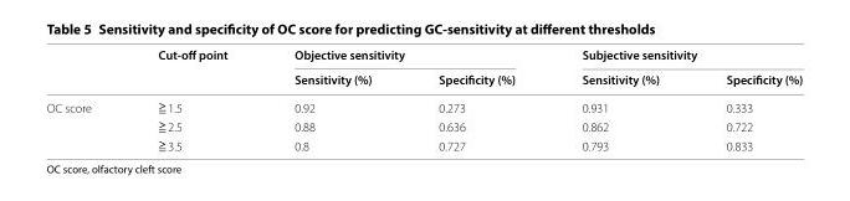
<table><thead><tr><td rowspan="2"></td><td rowspan="2">Cut-off point</td><td colspan="2">Objective sensitivity</td><td colspan="2">Subjective sensitivity</td></tr><tr><td>Sensitivity (%)</td><td>Specificity (%)</td><td>Sensitivity (%)</td><td>Specificity (%)</td></tr></thead><tbody><tr><td rowspan="3">OC score</td><td>≧ 1.5</td><td>0.92</td><td>0.273</td><td>0.931</td><td>0.333</td></tr><tr><td>≧ 2.5</td><td>0.88</td><td>0.636</td><td>0.862</td><td>0.722</td></tr><tr><td>≧ 3.5</td><td>0.8</td><td>0.727</td><td>0.793</td><td>0.833</td></tr></tbody></table>